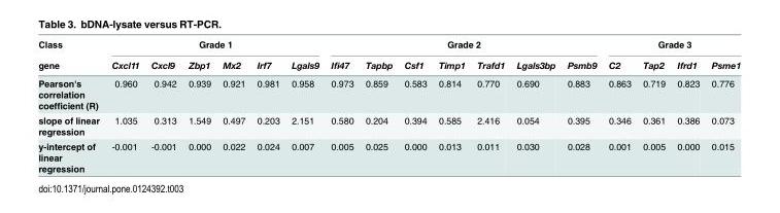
<table><thead><tr><td rowspan="2">Class gene</td><td colspan="6">Grade 1</td><td colspan="7">Grade 2</td><td colspan="4">Grade 3</td></tr><tr><td>Cxcl11</td><td>Cxcl9</td><td>Zbp1</td><td>Mx2</td><td>Irf7</td><td>Lgals9</td><td>Ifi47</td><td>Tapbp</td><td>Csf1</td><td>Timp1</td><td>Trafd1</td><td>Lgals3bp</td><td>Psmb9</td><td>C2</td><td>Tap2</td><td>Ifrd1</td><td>Psme1</td></tr></thead><tbody><tr><td>Pearson&#x27;s correlation coefficient (R)</td><td>0.960</td><td>0.942</td><td>0.939</td><td>0.921</td><td>0.981</td><td>0.958</td><td>0.973</td><td>0.859</td><td>0.583</td><td>0.814</td><td>0.770</td><td>0.690</td><td>0.883</td><td>0.863</td><td>0.719</td><td>0.823</td><td>0.776</td></tr><tr><td>slope of linear regression</td><td>1.035</td><td>0.313</td><td>1.549</td><td>0.497</td><td>0.203</td><td>2.151</td><td>0.580</td><td>0.204</td><td>0.394</td><td>0.585</td><td>2.416</td><td>0.054</td><td>0.395</td><td>0.346</td><td>0.361</td><td>0.386</td><td>0.073</td></tr><tr><td>y-intercept of linear regression</td><td>-0.001</td><td>-0.001</td><td>0.000</td><td>0.022</td><td>0.024</td><td>0.007</td><td>0.005</td><td>0.025</td><td>0.000</td><td>0.013</td><td>0.011</td><td>0.030</td><td>0.028</td><td>0.001</td><td>0.005</td><td>0.000</td><td>0.015</td></tr></tbody></table>